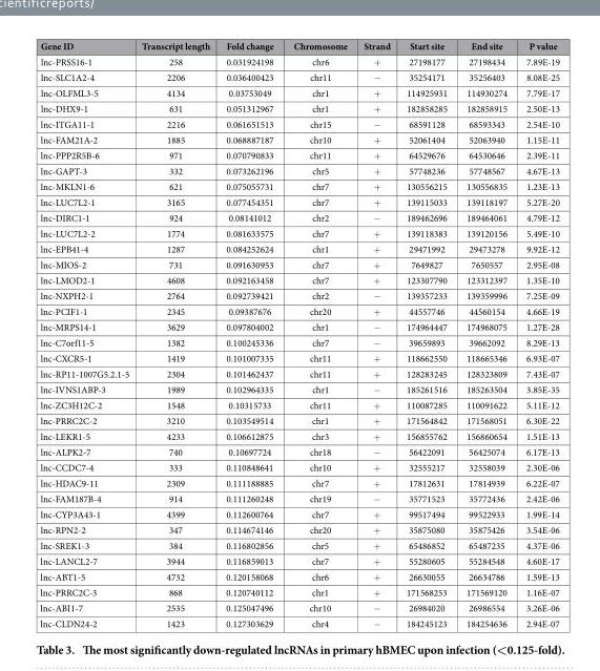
<table><thead><tr><td>Gene ID</td><td>Transcript length</td><td>Fold change</td><td>Chromosome</td><td>Strand</td><td>Start site</td><td>End site</td><td>P value</td></tr></thead><tbody><tr><td>lnc-PRSS16-1</td><td>258</td><td>0.031924198</td><td>chr6</td><td>+</td><td>27198177</td><td>27198434</td><td>7.89E-19</td></tr><tr><td>lnc-SLC1A2-4</td><td>2206</td><td>0.036400423</td><td>chr11</td><td>−</td><td>35254171</td><td>35256403</td><td>8.08E-25</td></tr><tr><td>lnc-OLFML3-5</td><td>4134</td><td>0.03753049</td><td>chr1</td><td>+</td><td>114925931</td><td>114930274</td><td>7.79E-17</td></tr><tr><td>lnc-DHX9-1</td><td>631</td><td>0.051312967</td><td>chr1</td><td>+</td><td>182858285</td><td>182858915</td><td>2.50E-13</td></tr><tr><td>lnc-ITGA11-1</td><td>2216</td><td>0.061651513</td><td>chr15</td><td>−</td><td>68591128</td><td>68593343</td><td>2.54E-10</td></tr><tr><td>lnc-FAM21A-2</td><td>1885</td><td>0.068887187</td><td>chr10</td><td>+</td><td>52061404</td><td>52063940</td><td>1.15E-11</td></tr><tr><td>lnc-PPP2R5B-6</td><td>971</td><td>0.070790833</td><td>chr11</td><td>+</td><td>64529676</td><td>64530646</td><td>2.39E-11</td></tr><tr><td>lnc-GAPT-3</td><td>332</td><td>0.073262196</td><td>chr5</td><td>+</td><td>57748236</td><td>57748567</td><td>4.67E-13</td></tr><tr><td>lnc-MKLN1-6</td><td>621</td><td>0.075055731</td><td>chr7</td><td>+</td><td>130556215</td><td>130556835</td><td>1.23E-13</td></tr><tr><td>lnc-LUC7L2-1</td><td>3165</td><td>0.077454351</td><td>chr7</td><td>+</td><td>139115033</td><td>139118197</td><td>5.27E-20</td></tr><tr><td>lnc-DIRC1-1</td><td>924</td><td>0.08141012</td><td>chr2</td><td>−</td><td>189462696</td><td>189464061</td><td>4.79E-12</td></tr><tr><td>lnc-LUC7L2-2</td><td>1774</td><td>0.081633575</td><td>chr7</td><td>+</td><td>139118383</td><td>139120156</td><td>5.49E-10</td></tr><tr><td>lnc-EPB41-4</td><td>1287</td><td>0.084252624</td><td>chr1</td><td>+</td><td>29471992</td><td>29473278</td><td>9.92E-12</td></tr><tr><td>lnc-MIOS-2</td><td>731</td><td>0.091630953</td><td>chr7</td><td>+</td><td>7649827</td><td>7650557</td><td>2.95E-08</td></tr><tr><td>lnc-LMOD2-1</td><td>4608</td><td>0.092163458</td><td>chr7</td><td>+</td><td>123307790</td><td>123312397</td><td>1.35E-10</td></tr><tr><td>lnc-NXPH2-1</td><td>2764</td><td>0.092739421</td><td>chr2</td><td>−</td><td>139357233</td><td>139359996</td><td>7.25E-09</td></tr><tr><td>lnc-PCIF1-1</td><td>2345</td><td>0.09387676</td><td>chr20</td><td>+</td><td>44557746</td><td>44560154</td><td>4.66E-19</td></tr><tr><td>lnc-MRPS14-1</td><td>3629</td><td>0.097804002</td><td>chr1</td><td>−</td><td>174964447</td><td>174968075</td><td>1.27E-28</td></tr><tr><td>lnc-C7orf11-5</td><td>1382</td><td>0.100245336</td><td>chr7</td><td>−</td><td>39659893</td><td>39662092</td><td>8.29E-13</td></tr><tr><td>lnc-CXCR5-1</td><td>1419</td><td>0.101007335</td><td>chr11</td><td>+</td><td>118662550</td><td>118665346</td><td>6.93E-07</td></tr><tr><td>lnc-RP11-1007G5.2.1-5</td><td>2304</td><td>0.101462437</td><td>chr11</td><td>+</td><td>128283245</td><td>128323809</td><td>7.43E-07</td></tr><tr><td>lnc-IVNS1ABP-3</td><td>1989</td><td>0.102964335</td><td>chr1</td><td>−</td><td>185261516</td><td>185263504</td><td>3.85E-35</td></tr><tr><td>lnc-ZC3H12C-2</td><td>1548</td><td>0.10315733</td><td>chr11</td><td>+</td><td>110087285</td><td>110091622</td><td>5.11E-12</td></tr><tr><td>lnc-PRRC2C-2</td><td>3210</td><td>0.103549514</td><td>chr1</td><td>+</td><td>171564842</td><td>171568051</td><td>6.30E-22</td></tr><tr><td>lnc-LEKR1-5</td><td>4233</td><td>0.106612875</td><td>chr3</td><td>+</td><td>156855762</td><td>156860654</td><td>1.51E-13</td></tr><tr><td>lnc-ALPK2-7</td><td>740</td><td>0.10697724</td><td>chr18</td><td>−</td><td>56422091</td><td>56425074</td><td>6.17E-13</td></tr><tr><td>lnc-CCDC7-4</td><td>333</td><td>0.110848641</td><td>chr10</td><td>+</td><td>32555217</td><td>32558039</td><td>2.30E-06</td></tr><tr><td>lnc-HDAC9-11</td><td>2309</td><td>0.111188885</td><td>chr7</td><td>+</td><td>17812631</td><td>17814939</td><td>6.22E-07</td></tr><tr><td>lnc-FAM187B-4</td><td>914</td><td>0.111260248</td><td>chr19</td><td>−</td><td>35771523</td><td>35772436</td><td>2.42E-06</td></tr><tr><td>lnc-CYP3A43-1</td><td>4399</td><td>0.112600764</td><td>chr7</td><td>+</td><td>99517494</td><td>99522933</td><td>1.99E-14</td></tr><tr><td>lnc-RPN2-2</td><td>347</td><td>0.114674146</td><td>chr20</td><td>+</td><td>35875080</td><td>35875426</td><td>3.54E-06</td></tr><tr><td>lnc-SREK1-3</td><td>384</td><td>0.116802856</td><td>chr5</td><td>+</td><td>65486852</td><td>65487235</td><td>4.37E-06</td></tr><tr><td>lnc-LANCL2-7</td><td>3944</td><td>0.116859013</td><td>chr7</td><td>+</td><td>55280605</td><td>55284548</td><td>4.60E-17</td></tr><tr><td>lnc-ABT1-5</td><td>4732</td><td>0.120158068</td><td>chr6</td><td>+</td><td>26630055</td><td>26634786</td><td>1.59E-13</td></tr><tr><td>lnc-PRRC2C-3</td><td>868</td><td>0.120740112</td><td>chr1</td><td>+</td><td>171568253</td><td>171569120</td><td>1.16E-07</td></tr><tr><td>lnc-ABI1-7</td><td>2535</td><td>0.125047496</td><td>chr10</td><td>−</td><td>26984020</td><td>26986554</td><td>3.26E-06</td></tr><tr><td>lnc-CLDN24-2</td><td>1423</td><td>0.127303629</td><td>chr4</td><td>−</td><td>184245123</td><td>184254636</td><td>2.94E-07</td></tr></tbody></table>